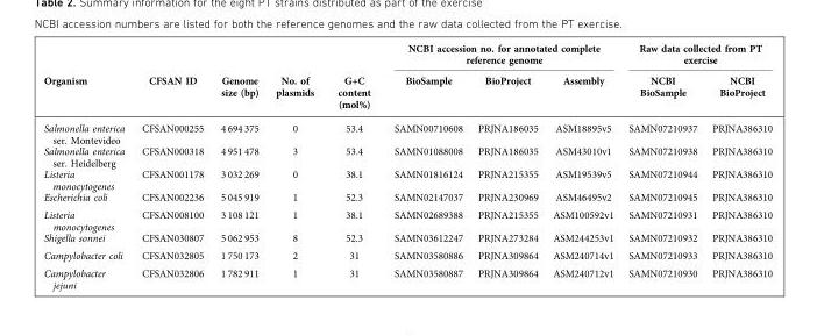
<table><thead><tr><td rowspan="2">Organism</td><td rowspan="2">CFSAN ID</td><td rowspan="2">Genome size (bp)</td><td rowspan="2">No. of plasmids</td><td rowspan="2">G+C content (mol%)</td><td colspan="3">NCBI accession no. for annotated complete reference genome</td><td colspan="2">Raw data collected from PT exercise</td></tr><tr><td>BioSample</td><td>BioProject</td><td>Assembly</td><td>NCBI BioSample</td><td>NCBI BioProject</td></tr></thead><tbody><tr><td>Salmonella enterica ser. Montevideo</td><td>CFSAN000255</td><td>4 694 375</td><td>0</td><td>53.4</td><td>SAMN00710608</td><td>PRJNA186035</td><td>ASM18895v5</td><td>SAMN07210937</td><td>PRJNA386310</td></tr><tr><td>Salmonella enterica ser. Heidelberg</td><td>CFSAN000318</td><td>4 951 478</td><td>3</td><td>53.4</td><td>SAMN01088008</td><td>PRJNA186035</td><td>ASM43010v1</td><td>SAMN07210938</td><td>PRJNA386310</td></tr><tr><td>Listeria monocytogenes</td><td>CFSAN001178</td><td>3 032 269</td><td>0</td><td>38.1</td><td>SAMN01816124</td><td>PRJNA215355</td><td>ASM19539v5</td><td>SAMN07210944</td><td>PRJNA386310</td></tr><tr><td>Escherichia coli</td><td>CFSAN002236</td><td>5 045 919</td><td>1</td><td>52.3</td><td>SAMN02147037</td><td>PRJNA230969</td><td>ASM46495v2</td><td>SAMN07210945</td><td>PRJNA386310</td></tr><tr><td>Listeria monocytogenes</td><td>CFSAN008100</td><td>3 108 121</td><td>1</td><td>38.1</td><td>SAMN02689388</td><td>PRJNA215355</td><td>ASM100592v1</td><td>SAMN07210931</td><td>PRJNA386310</td></tr><tr><td>Shigella sonnei</td><td>CFSAN030807</td><td>5 062 953</td><td>8</td><td>52.3</td><td>SAMN03612247</td><td>PRJNA273284</td><td>ASM244253v1</td><td>SAMN07210932</td><td>PRJNA386310</td></tr><tr><td>Campylobacter coli</td><td>CFSAN032805</td><td>1 750 173</td><td>2</td><td>31</td><td>SAMN03580886</td><td>PRJNA309864</td><td>ASM240714v1</td><td>SAMN07210933</td><td>PRJNA386310</td></tr><tr><td>Campylobacter jejuni</td><td>CFSAN032806</td><td>1 782 911</td><td>1</td><td>31</td><td>SAMN03580887</td><td>PRJNA309864</td><td>ASM240712v1</td><td>SAMN07210930</td><td>PRJNA386310</td></tr></tbody></table>